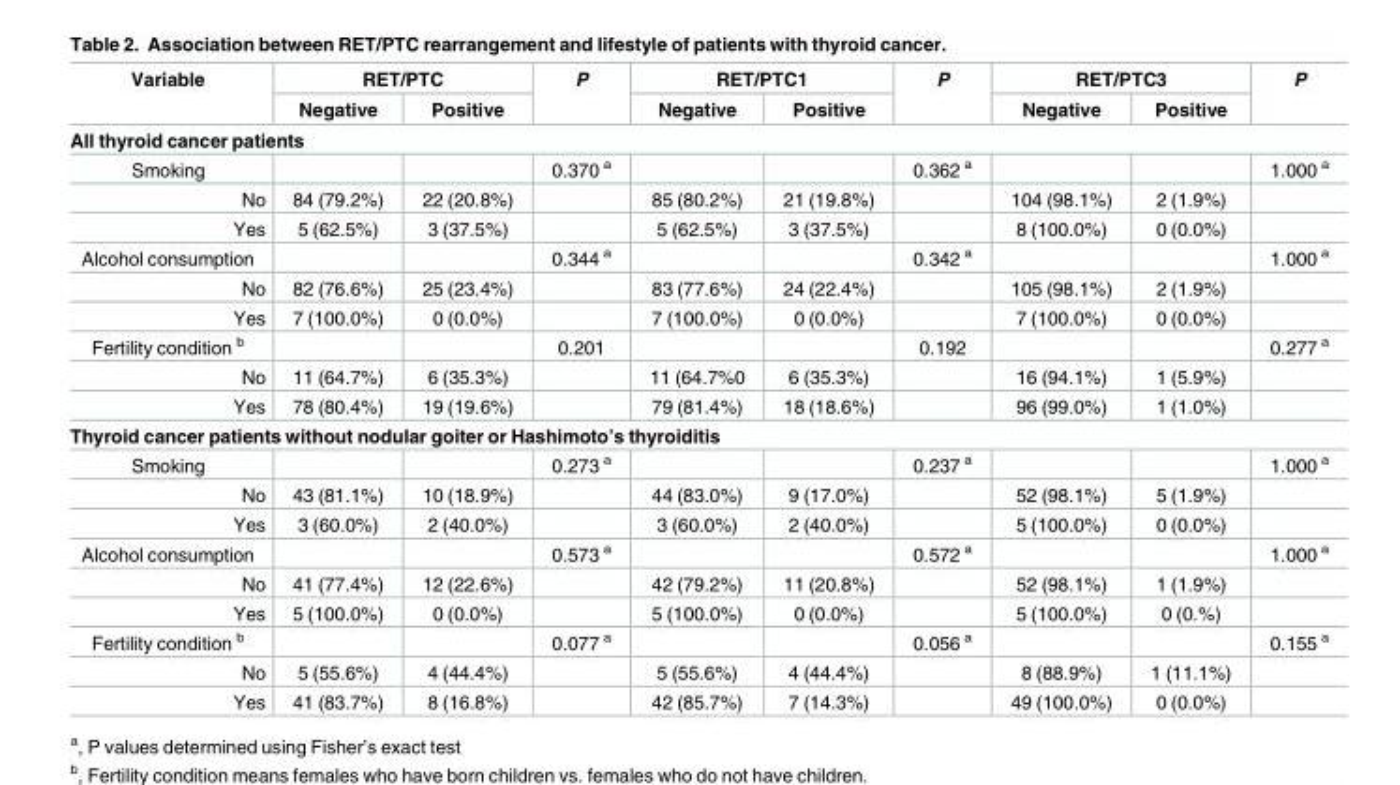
<table><thead><tr><td rowspan="2">Variable</td><td colspan="2">RET/PTC</td><td rowspan="2">P</td><td colspan="2">RET/PTC1</td><td rowspan="2">P</td><td colspan="2">RET/PTC3</td><td rowspan="2">P</td></tr><tr><td>Negative</td><td>Positive</td><td>Negative</td><td>Positive</td><td>Negative</td><td>Positive</td></tr></thead><tbody><tr><td colspan="10">All thyroid cancer patients</td></tr><tr><td>Smoking</td><td></td><td></td><td>0.370 <sup>a</sup></td><td></td><td></td><td>0.362 <sup>a</sup></td><td></td><td></td><td>1.000 <sup>a</sup></td></tr><tr><td>No</td><td>84 (79.2%)</td><td>22 (20.8%)</td><td></td><td>85 (80.2%)</td><td>21 (19.8%)</td><td></td><td>104 (98.1%)</td><td>2 (1.9%)</td><td></td></tr><tr><td>Yes</td><td>5 (62.5%)</td><td>3 (37.5%)</td><td></td><td>5 (62.5%)</td><td>3 (37.5%)</td><td></td><td>8 (100.0%)</td><td>0 (0.0%)</td><td></td></tr><tr><td>Alcohol consumption</td><td></td><td></td><td>0.344 <sup>a</sup></td><td></td><td></td><td>0.342 <sup>a</sup></td><td></td><td></td><td>1.000 <sup>a</sup></td></tr><tr><td>No</td><td>82 (76.6%)</td><td>25 (23.4%)</td><td></td><td>83 (77.6%)</td><td>24 (22.4%)</td><td></td><td>105 (98.1%)</td><td>2 (1.9%)</td><td></td></tr><tr><td>Yes</td><td>7 (100.0%)</td><td>0 (0.0%)</td><td></td><td>7 (100.0%)</td><td>0 (0.0%)</td><td></td><td>7 (100.0%)</td><td>0 (0.0%)</td><td></td></tr><tr><td>Fertility condition <sup>b</sup></td><td></td><td></td><td>0.201</td><td></td><td></td><td>0.192</td><td></td><td></td><td>0.277 <sup>a</sup></td></tr><tr><td>No</td><td>11 (64.7%)</td><td>6 (35.3%)</td><td></td><td>11 (64.7%0</td><td>6 (35.3%)</td><td></td><td>16 (94.1%)</td><td>1 (5.9%)</td><td></td></tr><tr><td>Yes</td><td>78 (80.4%)</td><td>19 (19.6%)</td><td></td><td>79 (81.4%)</td><td>18 (18.6%)</td><td></td><td>96 (99.0%)</td><td>1 (1.0%)</td><td></td></tr><tr><td colspan="10">Thyroid cancer patients without nodular goiter or Hashimoto’s thyroiditis</td></tr><tr><td>Smoking</td><td></td><td></td><td>0.273 <sup>a</sup></td><td></td><td></td><td>0.237 <sup>a</sup></td><td></td><td></td><td>1.000 <sup>a</sup></td></tr><tr><td>No</td><td>43 (81.1%)</td><td>10 (18.9%)</td><td></td><td>44 (83.0%)</td><td>9 (17.0%)</td><td></td><td>52 (98.1%)</td><td>5 (1.9%)</td><td></td></tr><tr><td>Yes</td><td>3 (60.0%)</td><td>2 (40.0%)</td><td></td><td>3 (60.0%)</td><td>2 (40.0%)</td><td></td><td>5 (100.0%)</td><td>0 (0.0%)</td><td></td></tr><tr><td>Alcohol consumption</td><td></td><td></td><td>0.573 <sup>a</sup></td><td></td><td></td><td>0.572 <sup>a</sup></td><td></td><td></td><td>1.000 <sup>a</sup></td></tr><tr><td>No</td><td>41 (77.4%)</td><td>12 (22.6%)</td><td></td><td>42 (79.2%)</td><td>11 (20.8%)</td><td></td><td>52 (98.1%)</td><td>1 (1.9%)</td><td></td></tr><tr><td>Yes</td><td>5 (100.0%)</td><td>0 (0.0%)</td><td></td><td>5 (100.0%)</td><td>0 (0.0%)</td><td></td><td>5 (100.0%)</td><td>0 (0.%)</td><td></td></tr><tr><td>Fertility condition <sup>b</sup></td><td></td><td></td><td>0.077 <sup>a</sup></td><td></td><td></td><td>0.056 <sup>a</sup></td><td></td><td></td><td>0.155 <sup>a</sup></td></tr><tr><td>No</td><td>5 (55.6%)</td><td>4 (44.4%)</td><td></td><td>5 (55.6%)</td><td>4 (44.4%)</td><td></td><td>8 (88.9%)</td><td>1 (11.1%)</td><td></td></tr><tr><td>Yes</td><td>41 (83.7%)</td><td>8 (16.8%)</td><td></td><td>42 (85.7%)</td><td>7 (14.3%)</td><td></td><td>49 (100.0%)</td><td>0 (0.0%)</td><td></td></tr></tbody></table>